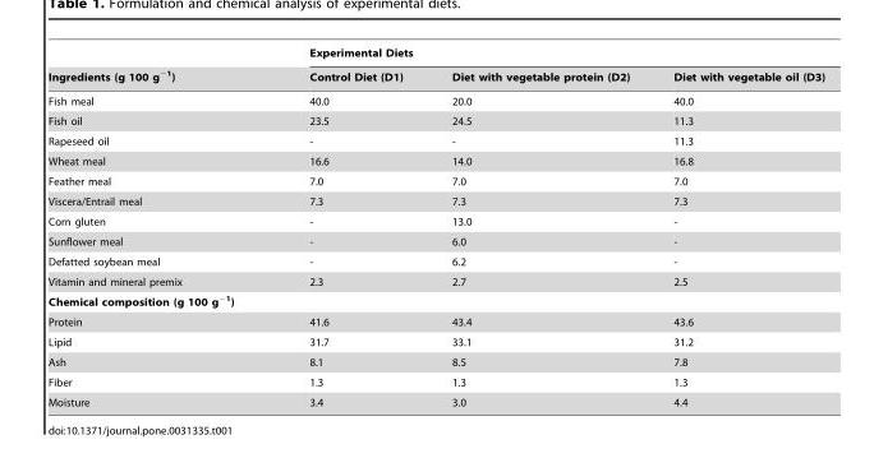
<table><thead><tr><td rowspan="2">Ingredients (g 100 g<sup>−1</sup>)</td><td colspan="3">Experimental Diets</td></tr><tr><td>Control Diet (D1)</td><td>Diet with vegetable protein (D2)</td><td>Diet with vegetable oil (D3)</td></tr></thead><tbody><tr><td>Fish meal</td><td>40.0</td><td>20.0</td><td>40.0</td></tr><tr><td>Fish oil</td><td>23.5</td><td>24.5</td><td>11.3</td></tr><tr><td>Rapeseed oil</td><td>-</td><td>-</td><td>11.3</td></tr><tr><td>Wheat meal</td><td>16.6</td><td>14.0</td><td>16.8</td></tr><tr><td>Feather meal</td><td>7.0</td><td>7.0</td><td>7.0</td></tr><tr><td>Viscera/Entrail meal</td><td>7.3</td><td>7.3</td><td>7.3</td></tr><tr><td>Corn gluten</td><td>-</td><td>13.0</td><td>-</td></tr><tr><td>Sunflower meal</td><td>-</td><td>6.0</td><td>-</td></tr><tr><td>Defatted soybean meal</td><td>-</td><td>6.2</td><td>-</td></tr><tr><td>Vitamin and mineral premix</td><td>2.3</td><td>2.7</td><td>2.5</td></tr><tr><td colspan="4">Chemical composition (g 100 g<sup>−1</sup>)</td></tr><tr><td>Protein</td><td>41.6</td><td>43.4</td><td>43.6</td></tr><tr><td>Lipid</td><td>31.7</td><td>33.1</td><td>31.2</td></tr><tr><td>Ash</td><td>8.1</td><td>8.5</td><td>7.8</td></tr><tr><td>Fiber</td><td>1.3</td><td>1.3</td><td>1.3</td></tr><tr><td>Moisture</td><td>3.4</td><td>3.0</td><td>4.4</td></tr></tbody></table>